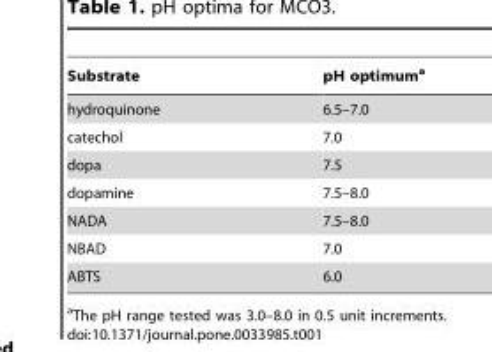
<table><thead><tr><td>Substrate</td><td>pH optimum<sup>a</sup></td></tr></thead><tbody><tr><td>hydroquinone</td><td>6.5–7.0</td></tr><tr><td>catechol</td><td>7.0</td></tr><tr><td>dopa</td><td>7.5</td></tr><tr><td>dopamine</td><td>7.5–8.0</td></tr><tr><td>NADA</td><td>7.5–8.0</td></tr><tr><td>NBAD</td><td>7.0</td></tr><tr><td>ABTS</td><td>6.0</td></tr></tbody></table>